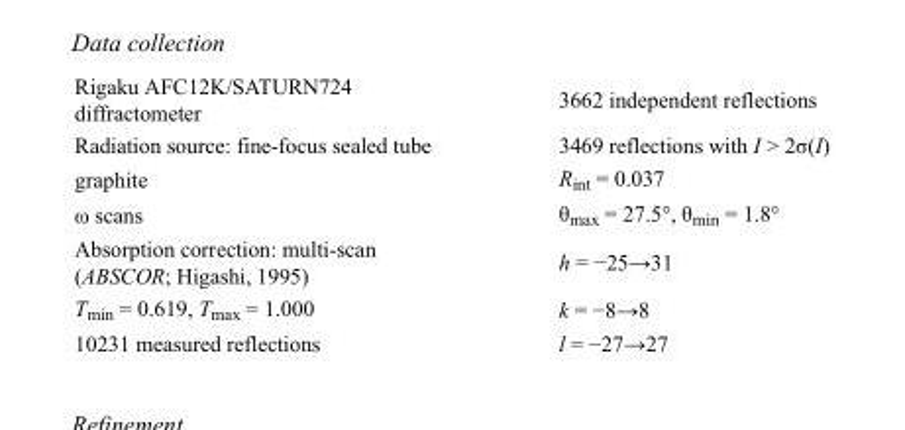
<table><tbody><tr><td>Rigaku AFC12K/SATURN724 diffractometer</td><td>3662 independent reflections</td></tr><tr><td>Radiation source: fine-focus sealed tube</td><td>3469 reflections with I &gt; 2σ(I)</td></tr><tr><td>graphite</td><td>R<sub>int</sub> = 0.037</td></tr><tr><td>ω scans</td><td>θ<sub>max</sub> = 27.5°, θ<sub>min</sub> = 1.8°</td></tr><tr><td>Absorption correction: multi-scan (ABSCOR; Higashi, 1995)</td><td>h = −25→31</td></tr><tr><td>T<sub>min</sub> = 0.619, T<sub>max</sub> = 1.000</td><td>k = −8→8</td></tr><tr><td>10231 measured reflections</td><td>l = −27→27</td></tr></tbody></table>